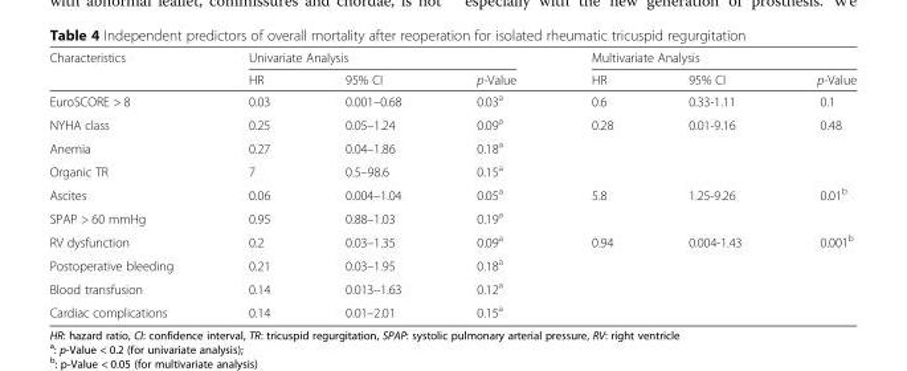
<table><thead><tr><td rowspan="2">Characteristics</td><td colspan="3">Univariate Analysis</td><td colspan="3">Multivariate Analysis</td></tr><tr><td>HR</td><td>95% CI</td><td>p-Value</td><td>HR</td><td>95% CI</td><td>p-Value</td></tr></thead><tbody><tr><td>EuroSCORE &gt; 8</td><td>0.03</td><td>0.001–0.68</td><td>0.03<sup>a</sup></td><td>0.6</td><td>0.33-1.11</td><td>0.1</td></tr><tr><td>NYHA class</td><td>0.25</td><td>0.05–1.24</td><td>0.09<sup>a</sup></td><td>0.28</td><td>0.01-9.16</td><td>0.48</td></tr><tr><td>Anemia</td><td>0.27</td><td>0.04–1.86</td><td>0.18<sup>a</sup></td><td></td><td></td><td></td></tr><tr><td>Organic TR</td><td>7</td><td>0.5–98.6</td><td>0.15<sup>a</sup></td><td></td><td></td><td></td></tr><tr><td>Ascites</td><td>0.06</td><td>0.004–1.04</td><td>0.05<sup>a</sup></td><td>5.8</td><td>1.25-9.26</td><td>0.01<sup>b</sup></td></tr><tr><td>SPAP &gt; 60 mmHg</td><td>0.95</td><td>0.88–1.03</td><td>0.19<sup>a</sup></td><td></td><td></td><td></td></tr><tr><td>RV dysfunction</td><td>0.2</td><td>0.03–1.35</td><td>0.09<sup>a</sup></td><td>0.94</td><td>0.004-1.43</td><td>0.001<sup>b</sup></td></tr><tr><td>Postoperative bleeding</td><td>0.21</td><td>0.03–1.95</td><td>0.18<sup>a</sup></td><td></td><td></td><td></td></tr><tr><td>Blood transfusion</td><td>0.14</td><td>0.013–1.63</td><td>0.12<sup>a</sup></td><td></td><td></td><td></td></tr><tr><td>Cardiac complications</td><td>0.14</td><td>0.01–2.01</td><td>0.15<sup>a</sup></td><td></td><td></td><td></td></tr></tbody></table>